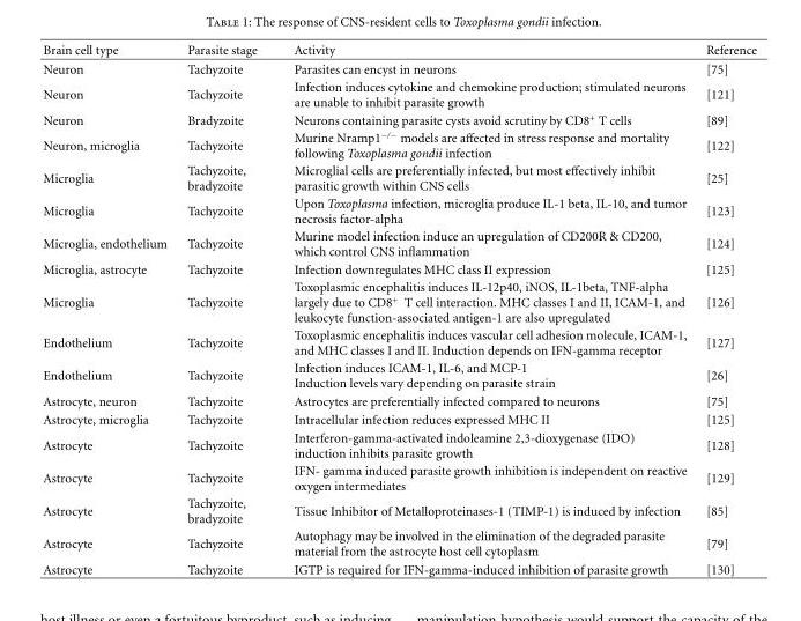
<table><thead><tr><td>Brain cell type</td><td>Parasite stage</td><td>Activity</td><td>Reference</td></tr></thead><tbody><tr><td>Neuron</td><td>Tachyzoite</td><td>Parasites can encyst in neurons</td><td>[75]</td></tr><tr><td>Neuron</td><td>Tachyzoite</td><td>Infection induces cytokine and chemokine production; stimulated neurons are unable to inhibit parasite growth</td><td>[121]</td></tr><tr><td>Neuron</td><td>Bradyzoite</td><td>Neurons containing parasite cysts avoid scrutiny by CD8<sup>+</sup> T cells</td><td>[89]</td></tr><tr><td>Neuron, microglia</td><td>Tachyzoite</td><td>Murine Nramp1<sup>−/−</sup> models are affected in stress response and mortality following Toxoplasma gondii infection</td><td>[122]</td></tr><tr><td>Microglia</td><td>Tachyzoite, bradyzoite</td><td>Microglial cells are preferentially infected, but most effectively inhibit parasitic growth within CNS cells</td><td>[25]</td></tr><tr><td>Microglia</td><td>Tachyzoite</td><td>Upon Toxoplasma infection, microglia produce IL-1 beta, IL-10, and tumor necrosis factor-alpha</td><td>[123]</td></tr><tr><td>Microglia, endothelium</td><td>Tachyzoite</td><td>Murine model infection induce an upregulation of CD200R &amp; CD200, which control CNS inflammation</td><td>[124]</td></tr><tr><td>Microglia, astrocyte</td><td>Tachyzoite</td><td>Infection downregulates MHC class II expression</td><td>[125]</td></tr><tr><td>Microglia</td><td>Tachyzoite</td><td>Toxoplasmic encephalitis induces IL-12p40, iNOS, IL-1beta, TNF-alpha largely due to CD8<sup>+</sup> T cell interaction. MHC classes I and II, ICAM-1, and leukocyte function-associated antigen-1 are also upregulated</td><td>[126]</td></tr><tr><td>Endothelium</td><td>Tachyzoite</td><td>Toxoplasmic encephalitis induces vascular cell adhesion molecule, ICAM-1, and MHC classes I and II. Induction depends on IFN-gamma receptor</td><td>[127]</td></tr><tr><td>Endothelium</td><td>Tachyzoite</td><td>Infection induces ICAM-1, IL-6, and MCP-1 Induction levels vary depending on parasite strain</td><td>[26]</td></tr><tr><td>Astrocyte, neuron</td><td>Tachyzoite</td><td>Astrocytes are preferentially infected compared to neurons</td><td>[75]</td></tr><tr><td>Astrocyte, microglia</td><td>Tachyzoite</td><td>Intracellular infection reduces expressed MHC II</td><td>[125]</td></tr><tr><td>Astrocyte</td><td>Tachyzoite</td><td>Interferon-gamma-activated indoleamine 2,3-dioxygenase (IDO) induction inhibits parasite growth</td><td>[128]</td></tr><tr><td>Astrocyte</td><td>Tachyzoite</td><td>IFN- gamma induced parasite growth inhibition is independent on reactive oxygen intermediates</td><td>[129]</td></tr><tr><td>Astrocyte</td><td>Tachyzoite, bradyzoite</td><td>Tissue Inhibitor of Metalloproteinases-1 (TIMP-1) is induced by infection</td><td>[85]</td></tr><tr><td>Astrocyte</td><td>Tachyzoite</td><td>Autophagy may be involved in the elimination of the degraded parasite material from the astrocyte host cell cytoplasm</td><td>[79]</td></tr><tr><td>Astrocyte</td><td>Tachyzoite</td><td>IGTP is required for IFN-gamma-induced inhibition of parasite growth</td><td>[130]</td></tr></tbody></table>